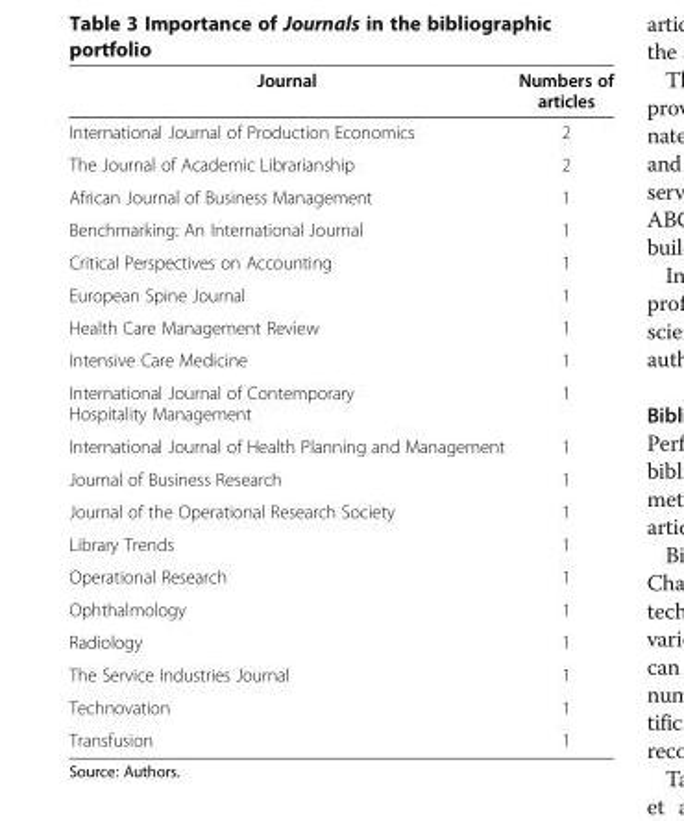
<table><thead><tr><td>Journal</td><td>Numbers of articles</td></tr></thead><tbody><tr><td>International Journal of Production Economics</td><td>2</td></tr><tr><td>The Journal of Academic Librarianship</td><td>2</td></tr><tr><td>African Journal of Business Management</td><td>1</td></tr><tr><td>Benchmarking: An International Journal</td><td>1</td></tr><tr><td>Critical Perspectives on Accounting</td><td>1</td></tr><tr><td>European Spine Journal</td><td>1</td></tr><tr><td>Health Care Management Review</td><td>1</td></tr><tr><td>Intensive Care Medicine</td><td>1</td></tr><tr><td>International Journal of Contemporary Hospitality Management</td><td>1</td></tr><tr><td>International Journal of Health Planning and Management</td><td>1</td></tr><tr><td>Journal of Business Research</td><td>1</td></tr><tr><td>Journal of the Operational Research Society</td><td>1</td></tr><tr><td>Library Trends</td><td>1</td></tr><tr><td>Operational Research</td><td>1</td></tr><tr><td>Ophthalmology</td><td>1</td></tr><tr><td>Radiology</td><td>1</td></tr><tr><td>The Service Industries Journal</td><td>1</td></tr><tr><td>Technovation</td><td>1</td></tr><tr><td>Transfusion</td><td>1</td></tr></tbody></table>